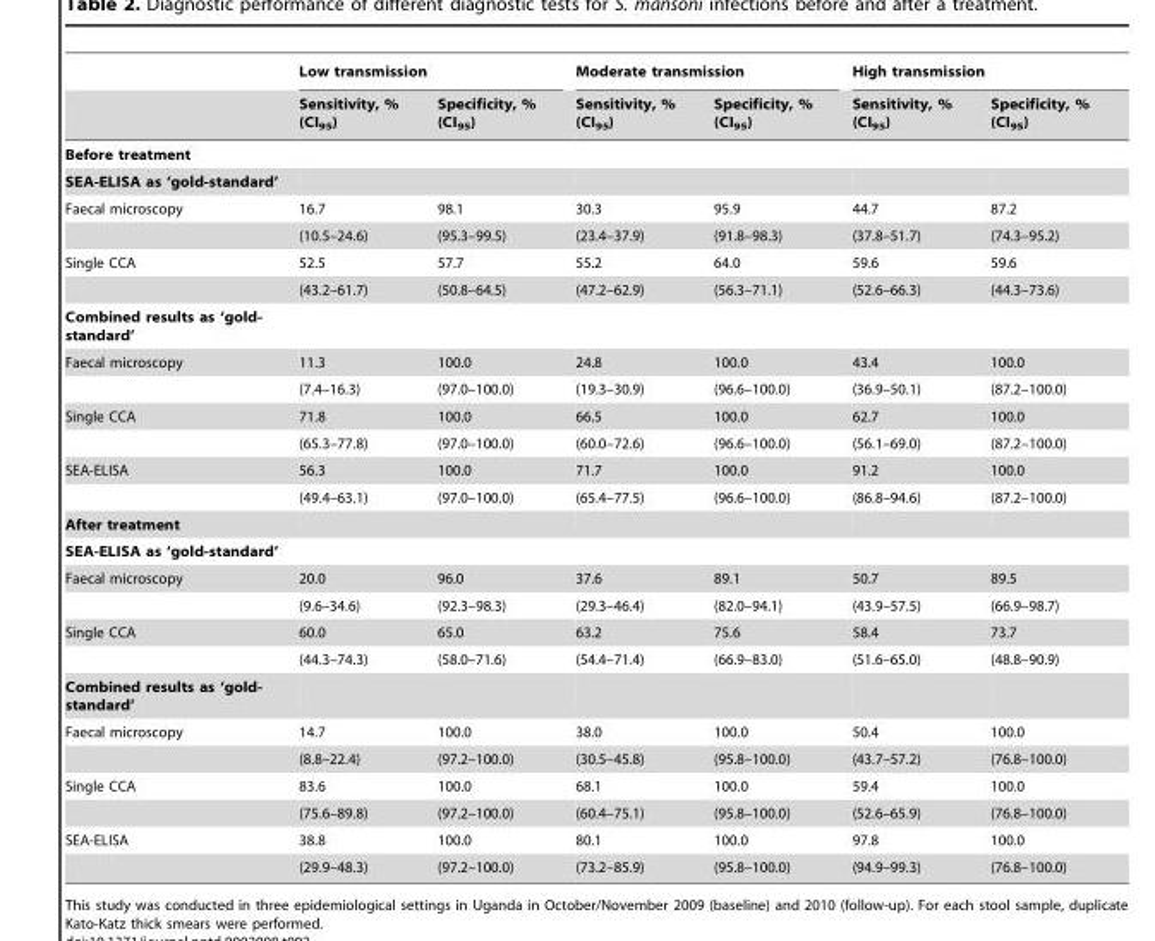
<table><thead><tr><td rowspan="2"></td><td colspan="2">Low transmission</td><td colspan="2">Moderate transmission</td><td colspan="2">High transmission</td></tr><tr><td>Sensitivity, % (CI<sub>95</sub>)</td><td>Specificity, % (CI<sub>95</sub>)</td><td>Sensitivity, % (CI<sub>95</sub>)</td><td>Specificity, % (CI<sub>95</sub>)</td><td>Sensitivity, % (CI<sub>95</sub>)</td><td>Specificity, % (CI<sub>95</sub>)</td></tr></thead><tbody><tr><td colspan="7">Before treatment</td></tr><tr><td colspan="7">SEA-ELISA as ‘gold-standard’</td></tr><tr><td rowspan="2">Faecal microscopy</td><td>16.7</td><td>98.1</td><td>30.3</td><td>95.9</td><td>44.7</td><td>87.2</td></tr><tr><td>(10.5–24.6)</td><td>(95.3–99.5)</td><td>(23.4–37.9)</td><td>(91.8–98.3)</td><td>(37.8–51.7)</td><td>(74.3–95.2)</td></tr><tr><td rowspan="2">Single CCA</td><td>52.5</td><td>57.7</td><td>55.2</td><td>64.0</td><td>59.6</td><td>59.6</td></tr><tr><td>(43.2–61.7)</td><td>(50.8–64.5)</td><td>(47.2–62.9)</td><td>(56.3–71.1)</td><td>(52.6–66.3)</td><td>(44.3–73.6)</td></tr><tr><td colspan="7">Combined results as ‘gold- standard’</td></tr><tr><td rowspan="2">Faecal microscopy</td><td>11.3</td><td>100.0</td><td>24.8</td><td>100.0</td><td>43.4</td><td>100.0</td></tr><tr><td>(7.4–16.3)</td><td>(97.0–100.0)</td><td>(19.3–30.9)</td><td>(96.6–100.0)</td><td>(36.9–50.1)</td><td>(87.2–100.0)</td></tr><tr><td rowspan="2">Single CCA</td><td>71.8</td><td>100.0</td><td>66.5</td><td>100.0</td><td>62.7</td><td>100.0</td></tr><tr><td>(65.3–77.8)</td><td>(97.0–100.0)</td><td>(60.0–72.6)</td><td>(96.6–100.0)</td><td>(56.1–69.0)</td><td>(87.2–100.0)</td></tr><tr><td rowspan="2">SEA-ELISA</td><td>56.3</td><td>100.0</td><td>71.7</td><td>100.0</td><td>91.2</td><td>100.0</td></tr><tr><td>(49.4–63.1)</td><td>(97.0–100.0)</td><td>(65.4–77.5)</td><td>(96.6–100.0)</td><td>(86.8–94.6)</td><td>(87.2–100.0)</td></tr><tr><td colspan="7">After treatment</td></tr><tr><td colspan="7">SEA-ELISA as ‘gold-standard’</td></tr><tr><td rowspan="2">Faecal microscopy</td><td>20.0</td><td>96.0</td><td>37.6</td><td>89.1</td><td>50.7</td><td>89.5</td></tr><tr><td>(9.6–34.6)</td><td>(92.3–98.3)</td><td>(29.3–46.4)</td><td>(82.0–94.1)</td><td>(43.9–57.5)</td><td>(66.9–98.7)</td></tr><tr><td rowspan="2">Single CCA</td><td>60.0</td><td>65.0</td><td>63.2</td><td>75.6</td><td>58.4</td><td>73.7</td></tr><tr><td>(44.3–74.3)</td><td>(58.0–71.6)</td><td>(54.4–71.4)</td><td>(66.9–83.0)</td><td>(51.6–65.0)</td><td>(48.8–90.9)</td></tr><tr><td colspan="7">Combined results as ‘gold- standard’</td></tr><tr><td rowspan="2">Faecal microscopy</td><td>14.7</td><td>100.0</td><td>38.0</td><td>100.0</td><td>50.4</td><td>100.0</td></tr><tr><td>(8.8–22.4)</td><td>(97.2–100.0)</td><td>(30.5–45.8)</td><td>(95.8–100.0)</td><td>(43.7–57.2)</td><td>(76.8–100.0)</td></tr><tr><td rowspan="2">Single CCA</td><td>83.6</td><td>100.0</td><td>68.1</td><td>100.0</td><td>59.4</td><td>100.0</td></tr><tr><td>(75.6–89.8)</td><td>(97.2–100.0)</td><td>(60.4–75.1)</td><td>(95.8–100.0)</td><td>(52.6–65.9)</td><td>(76.8–100.0)</td></tr><tr><td rowspan="2">SEA-ELISA</td><td>38.8</td><td>100.0</td><td>80.1</td><td>100.0</td><td>97.8</td><td>100.0</td></tr><tr><td>(29.9–48.3)</td><td>(97.2–100.0)</td><td>(73.2–85.9)</td><td>(95.8–100.0)</td><td>(94.9–99.3)</td><td>(76.8–100.0)</td></tr></tbody></table>